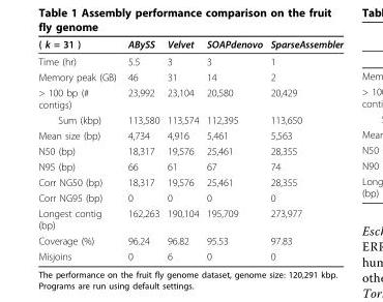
<table><thead><tr><td>( k = 31 )</td><td>ABySS</td><td>Velvet</td><td>SOAPdenovo</td><td>SparseAssembler</td></tr></thead><tbody><tr><td>Time (hr)</td><td>5.5</td><td>3</td><td>3</td><td>1</td></tr><tr><td>Memory peak (GB)</td><td>46</td><td>31</td><td>14</td><td>2</td></tr><tr><td>&gt; 100 bp (# contigs)</td><td>23,992</td><td>23,104</td><td>20,580</td><td>20,429</td></tr><tr><td>Sum (kbp)</td><td>113,580</td><td>113,574</td><td>112,395</td><td>113,650</td></tr><tr><td>Mean size (bp)</td><td>4,734</td><td>4,916</td><td>5,461</td><td>5,563</td></tr><tr><td>N50 (bp)</td><td>18,317</td><td>19,576</td><td>25,461</td><td>28,355</td></tr><tr><td>N95 (bp)</td><td>66</td><td>61</td><td>67</td><td>74</td></tr><tr><td>Corr NG50 (bp)</td><td>18,317</td><td>19,576</td><td>25,461</td><td>28,355</td></tr><tr><td>Corr NG95 (bp)</td><td>0</td><td>0</td><td>0</td><td>0</td></tr><tr><td>Longest contig (bp)</td><td>162,263</td><td>190,104</td><td>195,709</td><td>273,977</td></tr><tr><td>Coverage (%)</td><td>96.24</td><td>96.82</td><td>95.53</td><td>97.83</td></tr><tr><td>Misjoins</td><td>0</td><td>6</td><td>0</td><td>0</td></tr></tbody></table>